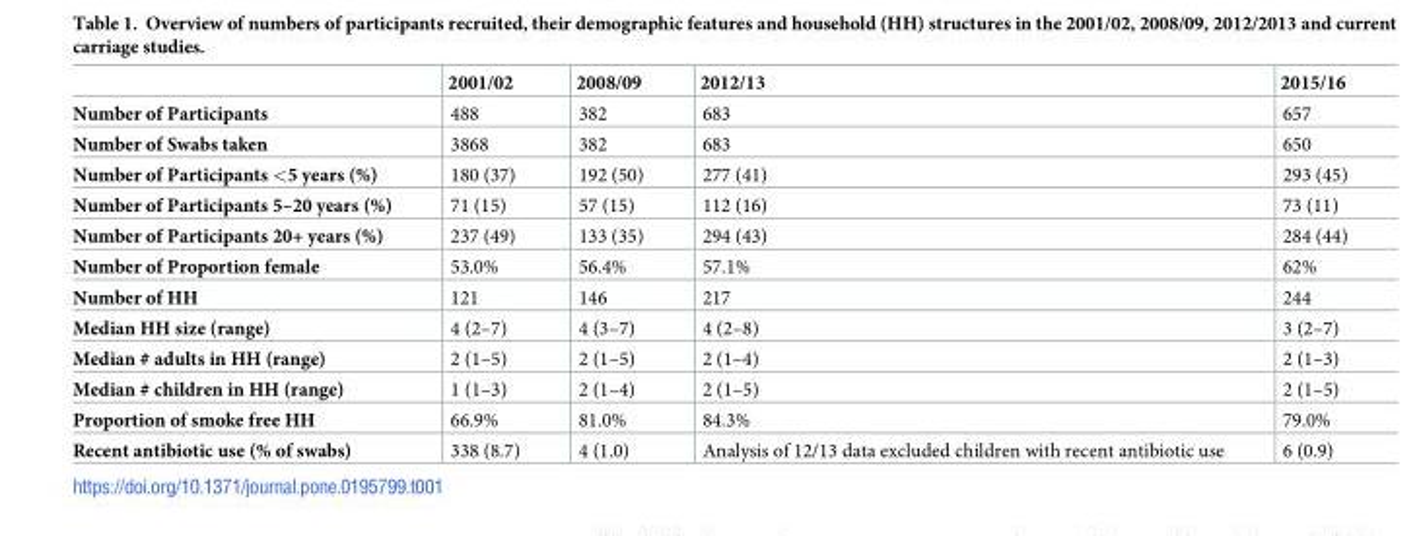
<table><thead><tr><td></td><td>2001/02</td><td>2008/09</td><td>2012/13</td><td>2015/16</td></tr></thead><tbody><tr><td>Number of Participants</td><td>488</td><td>382</td><td>683</td><td>657</td></tr><tr><td>Number of Swabs taken</td><td>3868</td><td>382</td><td>683</td><td>650</td></tr><tr><td>Number of Participants &lt;5 years (%)</td><td>180 (37)</td><td>192 (50)</td><td>277 (41)</td><td>293 (45)</td></tr><tr><td>Number of Participants 5–20 years (%)</td><td>71 (15)</td><td>57 (15)</td><td>112 (16)</td><td>73 (11)</td></tr><tr><td>Number of Participants 20+ years (%)</td><td>237 (49)</td><td>133 (35)</td><td>294 (43)</td><td>284 (44)</td></tr><tr><td>Number of Proportion female</td><td>53.0%</td><td>56.4%</td><td>57.1%</td><td>62%</td></tr><tr><td>Number of HH</td><td>121</td><td>146</td><td>217</td><td>244</td></tr><tr><td>Median HH size (range)</td><td>4 (2–7)</td><td>4 (3–7)</td><td>4 (2–8)</td><td>3 (2–7)</td></tr><tr><td>Median # adults in HH (range)</td><td>2 (1–5)</td><td>2 (1–5)</td><td>2 (1–4)</td><td>2 (1–3)</td></tr><tr><td>Median # children in HH (range)</td><td>1 (1–3)</td><td>2 (1–4)</td><td>2 (1–5)</td><td>2 (1–5)</td></tr><tr><td>Proportion of smoke free HH</td><td>66.9%</td><td>81.0%</td><td>84.3%</td><td>79.0%</td></tr><tr><td>Recent antibiotic use (% of swabs)</td><td>338 (8.7)</td><td>4 (1.0)</td><td>Analysis of 12/13 data excluded children with recent antibiotic use</td><td>6 (0.9)</td></tr></tbody></table>